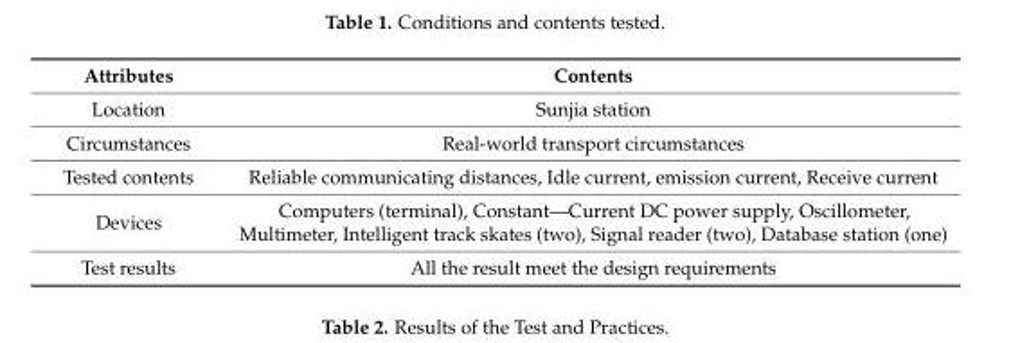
<table><thead><tr><td>Attributes</td><td>Contents</td></tr></thead><tbody><tr><td>Location</td><td>Sunjia station</td></tr><tr><td>Circumstances</td><td>Real-world transport circumstances</td></tr><tr><td>Tested contents</td><td>Reliable communicating distances, Idle current, emission current, Receive current</td></tr><tr><td>Devices</td><td>Computers (terminal), Constant—Current DC power supply, Oscillometer, Multimeter, Intelligent track skates (two), Signal reader (two), Database station (one)</td></tr><tr><td>Test results</td><td>All the result meet the design requirements</td></tr></tbody></table>